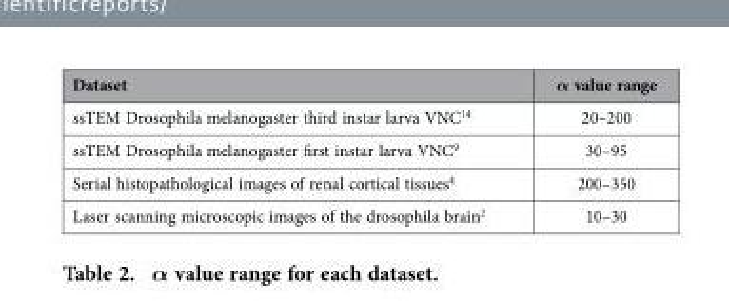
<table><thead><tr><td>Dataset</td><td>α value range</td></tr></thead><tbody><tr><td>ssTEM Drosophila melanogaster third instar larva VNC<sup>14</sup></td><td>20–200</td></tr><tr><td>ssTEM Drosophila melanogaster first instar larva VNC<sup>9</sup></td><td>30–95</td></tr><tr><td>Serial histopathological images of renal cortical tissues<sup>4</sup></td><td>200–350</td></tr><tr><td>Laser scanning microscopic images of the drosophila brain<sup>2</sup></td><td>10–30</td></tr></tbody></table>